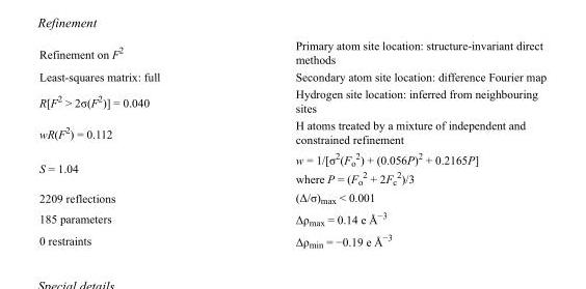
<table><tbody><tr><td>Refinement on F<sup>2</sup></td><td>Primary atom site location: structure-invariant direct methods</td></tr><tr><td>Least-squares matrix: full</td><td>Secondary atom site location: difference Fourier map</td></tr><tr><td>R[F<sup>2</sup> &gt; 2σ(F<sup>2</sup>)] = 0.040</td><td>Hydrogen site location: inferred from neighbouring sites</td></tr><tr><td>wR(F<sup>2</sup>) = 0.112</td><td>H atoms treated by a mixture of independent and constrained refinement</td></tr><tr><td>S = 1.04</td><td>w = 1/[σ<sup>2</sup>(F<sub>o</sub> <sup>2</sup>) + (0.056P)<sup>2</sup> + 0.2165P] where P = (F<sub>o</sub> <sup>2</sup> + 2F<sub>c</sub> <sup>2</sup>)/3</td></tr><tr><td>2209 reflections</td><td>(Δ/σ)<sub>max</sub> &lt; 0.001</td></tr><tr><td>185 parameters</td><td>Δρ<sub>max</sub> = 0.14 e Å<sup>−3</sup></td></tr><tr><td>0 restraints</td><td>Δρ<sub>min</sub> = −0.19 e Å<sup>−3</sup></td></tr></tbody></table>